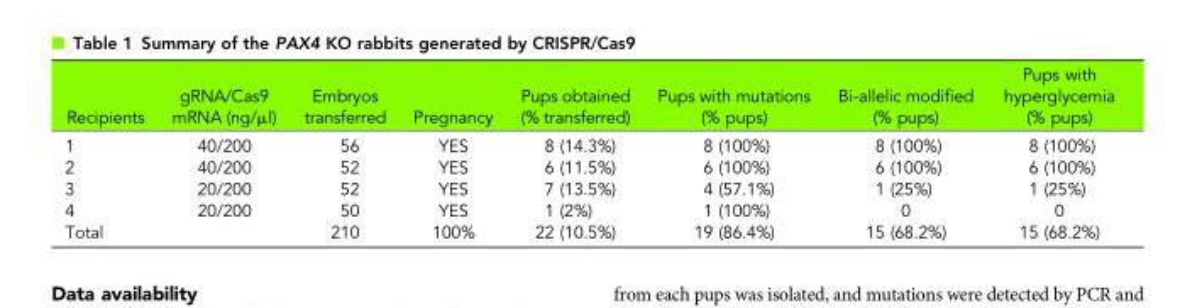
<table><thead><tr><td>Recipients</td><td>gRNA/Cas9 mRNA (ng/μl)</td><td>Embryos transferred</td><td>Pregnancy</td><td>Pups obtained (% transferred)</td><td>Pups with mutations (% pups)</td><td>Bi-allelic modified (% pups)</td><td>Pups with hyperglycemia (% pups)</td></tr></thead><tbody><tr><td>1</td><td>40/200</td><td>56</td><td>YES</td><td>8 (14.3%)</td><td>8 (100%)</td><td>8 (100%)</td><td>8 (100%)</td></tr><tr><td>2</td><td>40/200</td><td>52</td><td>YES</td><td>6 (11.5%)</td><td>6 (100%)</td><td>6 (100%)</td><td>6 (100%)</td></tr><tr><td>3</td><td>20/200</td><td>52</td><td>YES</td><td>7 (13.5%)</td><td>4 (57.1%)</td><td>1 (25%)</td><td>1 (25%)</td></tr><tr><td>4</td><td>20/200</td><td>50</td><td>YES</td><td>1 (2%)</td><td>1 (100%)</td><td>0</td><td>0</td></tr><tr><td>Total</td><td></td><td>210</td><td>100%</td><td>22 (10.5%)</td><td>19 (86.4%)</td><td>15 (68.2%)</td><td>15 (68.2%)</td></tr></tbody></table>